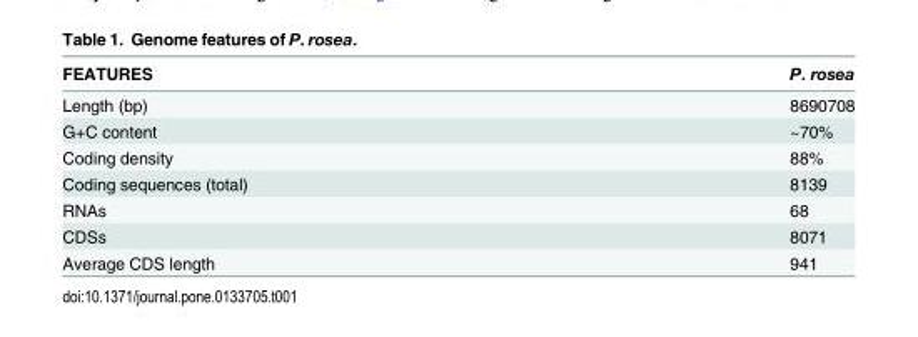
<table><thead><tr><td>FEATURES</td><td>P. rosea</td></tr></thead><tbody><tr><td>Length (bp)</td><td>8690708</td></tr><tr><td>G+C content</td><td>~70%</td></tr><tr><td>Coding density</td><td>88%</td></tr><tr><td>Coding sequences (total)</td><td>8139</td></tr><tr><td>RNAs</td><td>68</td></tr><tr><td>CDSs</td><td>8071</td></tr><tr><td>Average CDS length</td><td>941</td></tr></tbody></table>